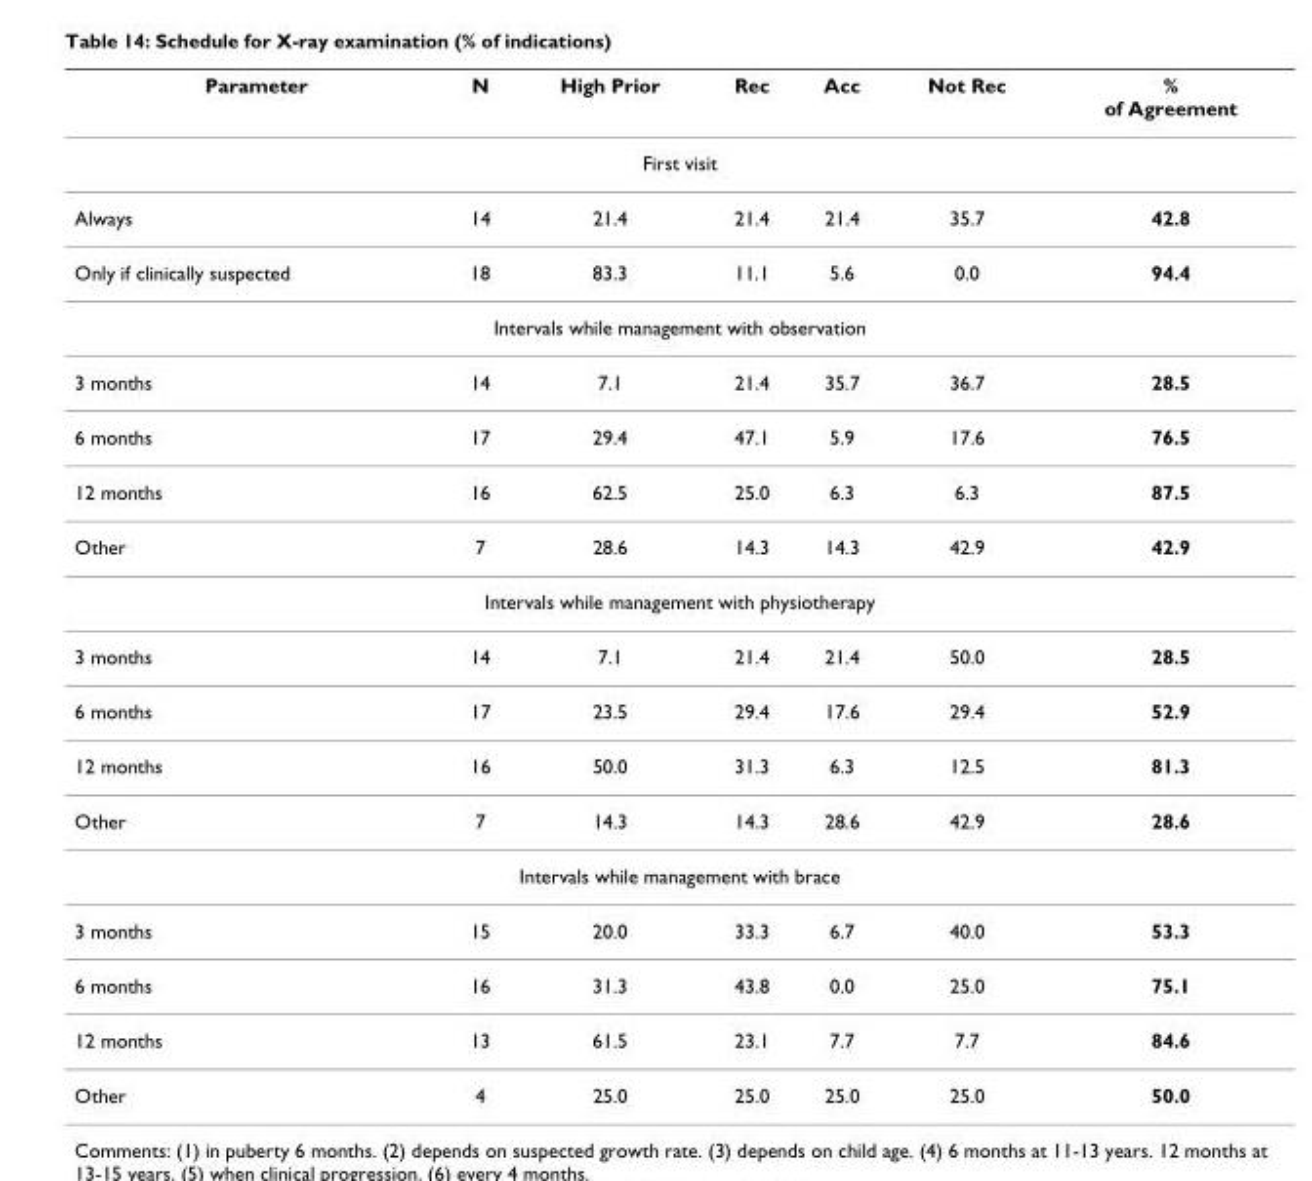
<table><thead><tr><td>Parameter</td><td>N</td><td>High Prior</td><td>Rec</td><td>Acc</td><td>Not Rec</td><td>% of Agreement</td></tr></thead><tbody><tr><td colspan="7">First visit</td></tr><tr><td>Always</td><td>14</td><td>21.4</td><td>21.4</td><td>21.4</td><td>35.7</td><td>42.8</td></tr><tr><td>Only if clinically suspected</td><td>18</td><td>83.3</td><td>11.1</td><td>5.6</td><td>0.0</td><td>94.4</td></tr><tr><td colspan="7">Intervals while management with observation</td></tr><tr><td>3 months</td><td>14</td><td>7.1</td><td>21.4</td><td>35.7</td><td>36.7</td><td>28.5</td></tr><tr><td>6 months</td><td>17</td><td>29.4</td><td>47.1</td><td>5.9</td><td>17.6</td><td>76.5</td></tr><tr><td>12 months</td><td>16</td><td>62.5</td><td>25.0</td><td>6.3</td><td>6.3</td><td>87.5</td></tr><tr><td>Other</td><td>7</td><td>28.6</td><td>14.3</td><td>14.3</td><td>42.9</td><td>42.9</td></tr><tr><td colspan="7">Intervals while management with physiotherapy</td></tr><tr><td>3 months</td><td>14</td><td>7.1</td><td>21.4</td><td>21.4</td><td>50.0</td><td>28.5</td></tr><tr><td>6 months</td><td>17</td><td>23.5</td><td>29.4</td><td>17.6</td><td>29.4</td><td>52.9</td></tr><tr><td>12 months</td><td>16</td><td>50.0</td><td>31.3</td><td>6.3</td><td>12.5</td><td>81.3</td></tr><tr><td>Other</td><td>7</td><td>14.3</td><td>14.3</td><td>28.6</td><td>42.9</td><td>28.6</td></tr><tr><td colspan="7">Intervals while management with brace</td></tr><tr><td>3 months</td><td>15</td><td>20.0</td><td>33.3</td><td>6.7</td><td>40.0</td><td>53.3</td></tr><tr><td>6 months</td><td>16</td><td>31.3</td><td>43.8</td><td>0.0</td><td>25.0</td><td>75.1</td></tr><tr><td>12 months</td><td>13</td><td>61.5</td><td>23.1</td><td>7.7</td><td>7.7</td><td>84.6</td></tr><tr><td>Other</td><td>4</td><td>25.0</td><td>25.0</td><td>25.0</td><td>25.0</td><td>50.0</td></tr></tbody></table>